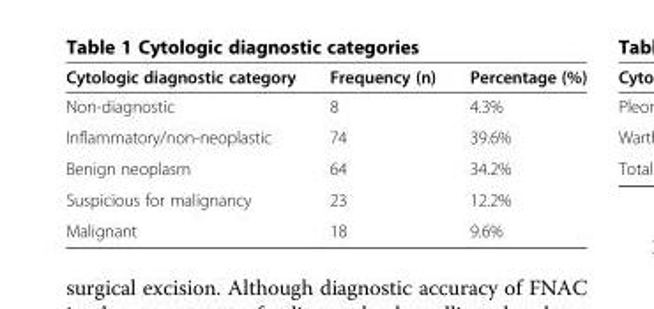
<table><thead><tr><td>Cytologic diagnostic category</td><td>Frequency (n)</td><td>Percentage (%)</td></tr></thead><tbody><tr><td>Non-diagnostic</td><td>8</td><td>4.3%</td></tr><tr><td>Inflammatory/non-neoplastic</td><td>74</td><td>39.6%</td></tr><tr><td>Benign neoplasm</td><td>64</td><td>34.2%</td></tr><tr><td>Suspicious for malignancy</td><td>23</td><td>12.2%</td></tr><tr><td>Malignant</td><td>18</td><td>9.6%</td></tr></tbody></table>